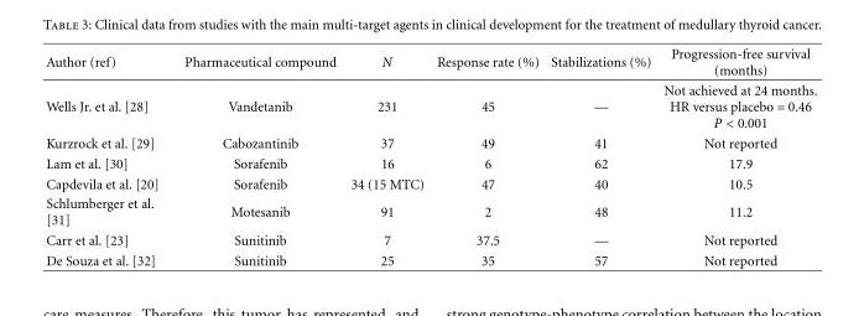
<table><thead><tr><td>Author (ref)</td><td>Pharmaceutical compound</td><td>N</td><td>Response rate (%)</td><td>Stabilizations (%)</td><td>Progression-free survival (months)</td></tr></thead><tbody><tr><td>Wells Jr. et al. [28]</td><td>Vandetanib</td><td>231</td><td>45</td><td>—</td><td>Not achieved at 24 months. HR versus placebo = 0.46 P &lt; 0.001</td></tr><tr><td>Kurzrock et al. [29]</td><td>Cabozantinib</td><td>37</td><td>49</td><td>41</td><td>Not reported</td></tr><tr><td>Lam et al. [30]</td><td>Sorafenib</td><td>16</td><td>6</td><td>62</td><td>17.9</td></tr><tr><td>Capdevila et al. [20]</td><td>Sorafenib</td><td>34 (15 MTC)</td><td>47</td><td>40</td><td>10.5</td></tr><tr><td>Schlumberger et al. [31]</td><td>Motesanib</td><td>91</td><td>2</td><td>48</td><td>11.2</td></tr><tr><td>Carr et al. [23]</td><td>Sunitinib</td><td>7</td><td>37.5</td><td>—</td><td>Not reported</td></tr><tr><td>De Souza et al. [32]</td><td>Sunitinib</td><td>25</td><td>35</td><td>57</td><td>Not reported</td></tr></tbody></table>